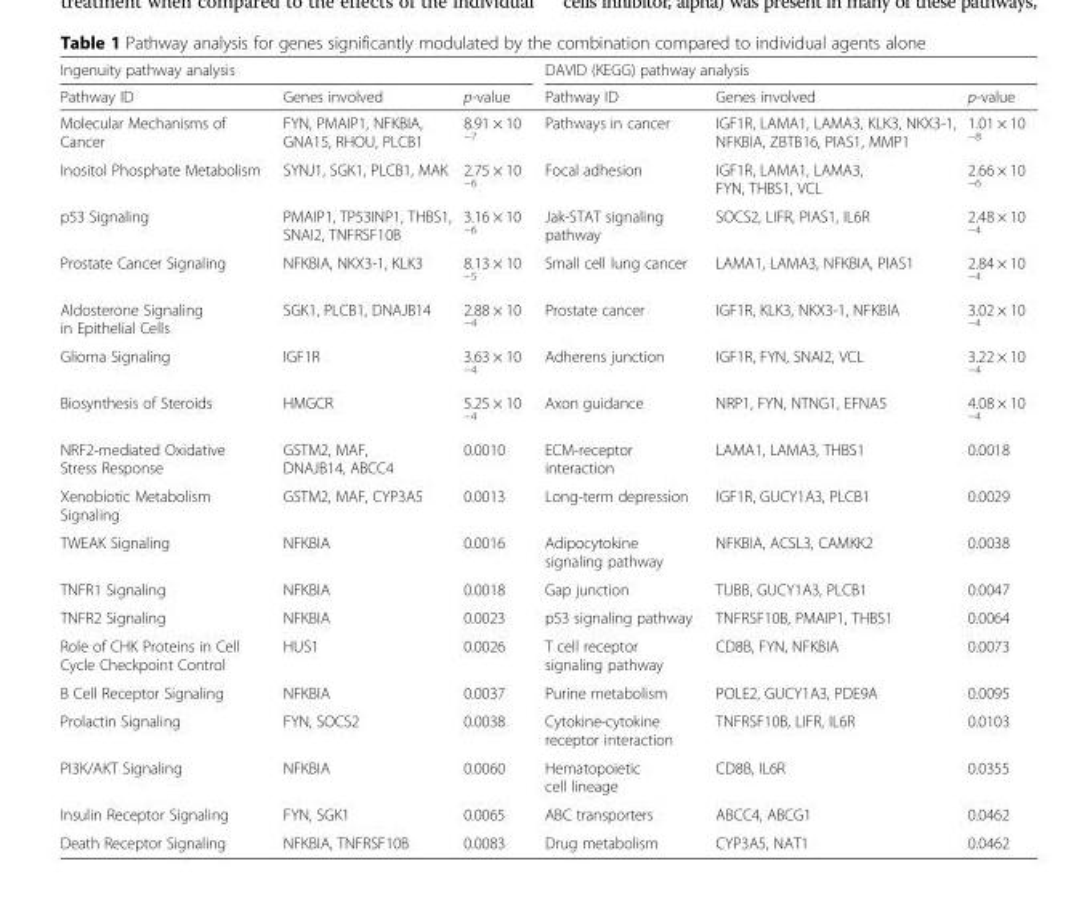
<table><thead><tr><td colspan="3">Ingenuity pathway analysis</td><td colspan="3">DAVID (KEGG) pathway analysis</td></tr><tr><td>Pathway ID</td><td>Genes involved</td><td>p-value</td><td>Pathway ID</td><td>Genes involved</td><td>p-value</td></tr></thead><tbody><tr><td>Molecular Mechanisms of Cancer</td><td>FYN, PMAIP1, NFKBIA, GNA15, RHOU, PLCB1</td><td>8.91 × 10 <sup>−7</sup></td><td>Pathways in cancer</td><td>IGF1R, LAMA1, LAMA3, KLK3, NKX3-1, NFKBIA, ZBTB16, PIAS1, MMP1</td><td>1.01 × 10 <sup>−8</sup></td></tr><tr><td>Inositol Phosphate Metabolism</td><td>SYNJ1, SGK1, PLCB1, MAK</td><td>2.75 × 10 <sup>−6</sup></td><td>Focal adhesion</td><td>IGF1R, LAMA1, LAMA3, FYN, THBS1, VCL</td><td>2.66 × 10 <sup>−6</sup></td></tr><tr><td>p53 Signaling</td><td>PMAIP1, TP53INP1, THBS1, SNAI2, TNFRSF10B</td><td>3.16 × 10 <sup>−6</sup></td><td>Jak-STAT signaling pathway</td><td>SOCS2, LIFR, PIAS1, IL6R</td><td>2.48 × 10 <sup>−4</sup></td></tr><tr><td>Prostate Cancer Signaling</td><td>NFKBIA, NKX3-1, KLK3</td><td>8.13 × 10 <sup>−5</sup></td><td>Small cell lung cancer</td><td>LAMA1, LAMA3, NFKBIA, PIAS1</td><td>2.84 × 10 <sup>−4</sup></td></tr><tr><td>Aldosterone Signaling in Epithelial Cells</td><td>SGK1, PLCB1, DNAJB14</td><td>2.88 × 10 <sup>−4</sup></td><td>Prostate cancer</td><td>IGF1R, KLK3, NKX3-1, NFKBIA</td><td>3.02 × 10 <sup>−4</sup></td></tr><tr><td>Glioma Signaling</td><td>IGF1R</td><td>3.63 × 10 <sup>−4</sup></td><td>Adherens junction</td><td>IGF1R, FYN, SNAI2, VCL</td><td>3.22 × 10 <sup>−4</sup></td></tr><tr><td>Biosynthesis of Steroids</td><td>HMGCR</td><td>5.25 × 10 <sup>−4</sup></td><td>Axon guidance</td><td>NRP1, FYN, NTNG1, EFNA5</td><td>4.08 × 10 <sup>−4</sup></td></tr><tr><td>NRF2-mediated Oxidative Stress Response</td><td>GSTM2, MAF, DNAJB14, ABCC4</td><td>0.0010</td><td>ECM-receptor interaction</td><td>LAMA1, LAMA3, THBS1</td><td>0.0018</td></tr><tr><td>Xenobiotic Metabolism Signaling</td><td>GSTM2, MAF, CYP3A5</td><td>0.0013</td><td>Long-term depression</td><td>IGF1R, GUCY1A3, PLCB1</td><td>0.0029</td></tr><tr><td>TWEAK Signaling</td><td>NFKBIA</td><td>0.0016</td><td>Adipocytokine signaling pathway</td><td>NFKBIA, ACSL3, CAMKK2</td><td>0.0038</td></tr><tr><td>TNFR1 Signaling</td><td>NFKBIA</td><td>0.0018</td><td>Gap junction</td><td>TUBB, GUCY1A3, PLCB1</td><td>0.0047</td></tr><tr><td>TNFR2 Signaling</td><td>NFKBIA</td><td>0.0023</td><td>p53 signaling pathway</td><td>TNFRSF10B, PMAIP1, THBS1</td><td>0.0064</td></tr><tr><td>Role of CHK Proteins in Cell Cycle Checkpoint Control</td><td>HUS1</td><td>0.0026</td><td>T cell receptor signaling pathway</td><td>CD8B, FYN, NFKBIA</td><td>0.0073</td></tr><tr><td>B Cell Receptor Signaling</td><td>NFKBIA</td><td>0.0037</td><td>Purine metabolism</td><td>POLE2, GUCY1A3, PDE9A</td><td>0.0095</td></tr><tr><td>Prolactin Signaling</td><td>FYN, SOCS2</td><td>0.0038</td><td>Cytokine-cytokine receptor interaction</td><td>TNFRSF10B, LIFR, IL6R</td><td>0.0103</td></tr><tr><td>PI3K/AKT Signaling</td><td>NFKBIA</td><td>0.0060</td><td>Hematopoietic cell lineage</td><td>CD8B, IL6R</td><td>0.0355</td></tr><tr><td>Insulin Receptor Signaling</td><td>FYN, SGK1</td><td>0.0065</td><td>ABC transporters</td><td>ABCC4, ABCG1</td><td>0.0462</td></tr><tr><td>Death Receptor Signaling</td><td>NFKBIA, TNFRSF10B</td><td>0.0083</td><td>Drug metabolism</td><td>CYP3A5, NAT1</td><td>0.0462</td></tr></tbody></table>